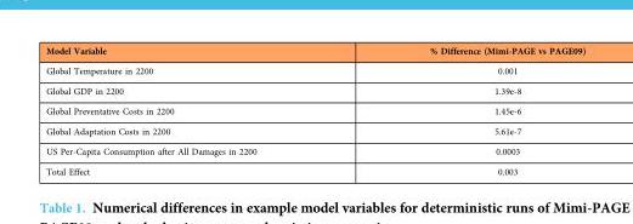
<table><thead><tr><td>Model Variable</td><td>% Difference (Mimi-PAGE vs PAGE09)</td></tr></thead><tbody><tr><td>Global Temperature in 2200</td><td>0.001</td></tr><tr><td>Global GDP in 2200</td><td>1.39e-8</td></tr><tr><td>Global Preventative Costs in 2200</td><td>1.45e-6</td></tr><tr><td>Global Adaptation Costs in 2200</td><td>5.61e-7</td></tr><tr><td>US Per-Capita Consumption after All Damages in 2200</td><td>0.0003</td></tr><tr><td>Total Effect</td><td>0.003</td></tr></tbody></table>